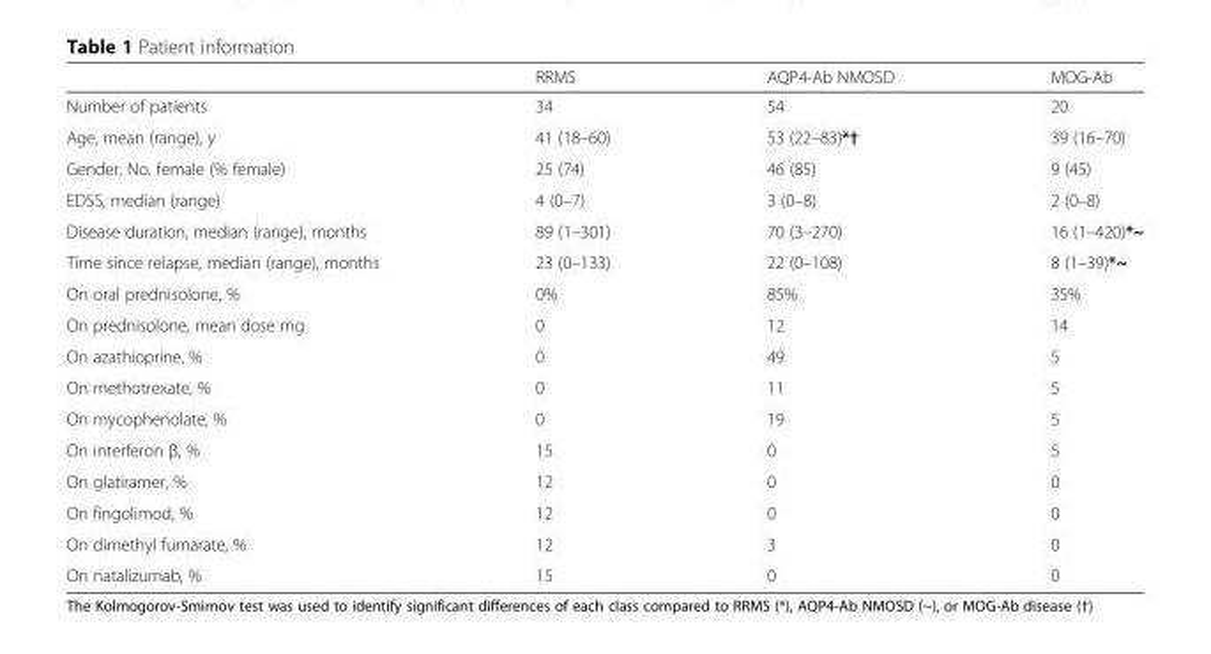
<table><thead><tr><td></td><td>RRMS</td><td>AQP4-Ab NMOSD</td><td>MOG-Ab</td></tr></thead><tbody><tr><td>Number of patients</td><td>34</td><td>54</td><td>20</td></tr><tr><td>Age, mean (range), y</td><td>41 (18–60)</td><td>53 (22–83)*†</td><td>39 (16–70)</td></tr><tr><td>Gender, No. female (% female)</td><td>25 (74)</td><td>46 (85)</td><td>9 (45)</td></tr><tr><td>EDSS, median (range)</td><td>4 (0–7)</td><td>3 (0–8)</td><td>2 (0–8)</td></tr><tr><td>Disease duration, median (range), months</td><td>89 (1–301)</td><td>70 (3–270)</td><td>16 (1–420)*~</td></tr><tr><td>Time since relapse, median (range), months</td><td>23 (0–133)</td><td>22 (0–108)</td><td>8 (1–39)*~</td></tr><tr><td>On oral prednisolone, %</td><td>0%</td><td>85%</td><td>35%</td></tr><tr><td>On prednisolone, mean dose mg</td><td>0</td><td>12</td><td>14</td></tr><tr><td>On azathioprine, %</td><td>0</td><td>49</td><td>5</td></tr><tr><td>On methotrexate, %</td><td>0</td><td>11</td><td>5</td></tr><tr><td>On mycophenolate, %</td><td>0</td><td>19</td><td>5</td></tr><tr><td>On interferon β, %</td><td>15</td><td>0</td><td>5</td></tr><tr><td>On glatiramer, %</td><td>12</td><td>0</td><td>0</td></tr><tr><td>On fingolimod, %</td><td>12</td><td>0</td><td>0</td></tr><tr><td>On dimethyl fumarate, %</td><td>12</td><td>3</td><td>0</td></tr><tr><td>On natalizumab, %</td><td>15</td><td>0</td><td>0</td></tr></tbody></table>